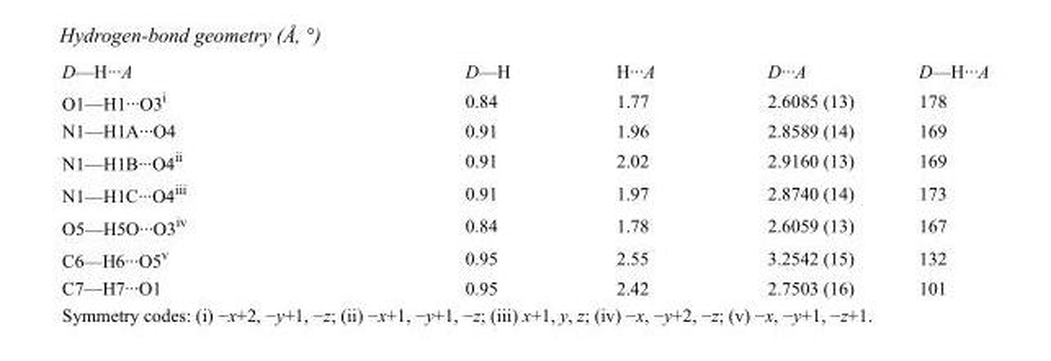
<table><tbody><tr><td>D—H···A</td><td>D—H</td><td>H···A</td><td>D···A</td><td>D—H···A</td></tr><tr><td>O1—H1···O3<sup>i</sup></td><td>0.84</td><td>1.77</td><td>2.6085 (13)</td><td>178</td></tr><tr><td>N1—H1A···O4</td><td>0.91</td><td>1.96</td><td>2.8589 (14)</td><td>169</td></tr><tr><td>N1—H1B···O4<sup>ii</sup></td><td>0.91</td><td>2.02</td><td>2.9160 (13)</td><td>169</td></tr><tr><td>N1—H1C···O4<sup>iii</sup></td><td>0.91</td><td>1.97</td><td>2.8740 (14)</td><td>173</td></tr><tr><td>O5—H5O···O3<sup>iv</sup></td><td>0.84</td><td>1.78</td><td>2.6059 (13)</td><td>167</td></tr><tr><td>C6—H6···O5<sup>v</sup></td><td>0.95</td><td>2.55</td><td>3.2542 (15)</td><td>132</td></tr><tr><td>C7—H7···O1</td><td>0.95</td><td>2.42</td><td>2.7503 (16)</td><td>101</td></tr></tbody></table>